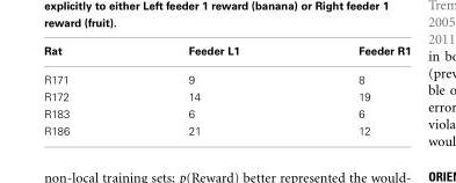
<table><thead><tr><td>Rat</td><td>Feeder L1</td><td>Feeder R1</td></tr></thead><tbody><tr><td>R171</td><td>9</td><td>8</td></tr><tr><td>R172</td><td>14</td><td>19</td></tr><tr><td>R183</td><td>6</td><td>6</td></tr><tr><td>R186</td><td>21</td><td>12</td></tr></tbody></table>